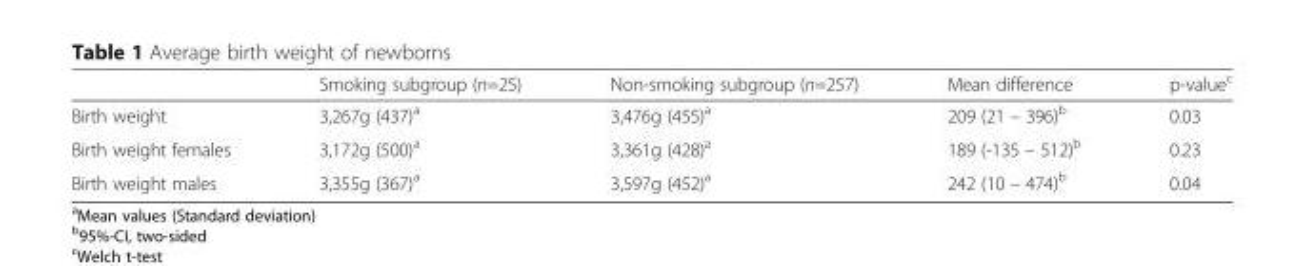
<table><thead><tr><td></td><td>Smoking subgroup (n=25)</td><td>Non-smoking subgroup (n=257)</td><td>Mean difference</td><td>p-value<sup>c</sup></td></tr></thead><tbody><tr><td>Birth weight</td><td>3,267g (437)<sup>a</sup></td><td>3,476g (455)<sup>a</sup></td><td>209 (21 – 396)<sup>b</sup></td><td>0.03</td></tr><tr><td>Birth weight females</td><td>3,172g (500)<sup>a</sup></td><td>3,361g (428)<sup>a</sup></td><td>189 (-135 – 512)<sup>b</sup></td><td>0.23</td></tr><tr><td>Birth weight males</td><td>3,355g (367)<sup>a</sup></td><td>3,597g (452)<sup>a</sup></td><td>242 (10 – 474)<sup>b</sup></td><td>0.04</td></tr></tbody></table>